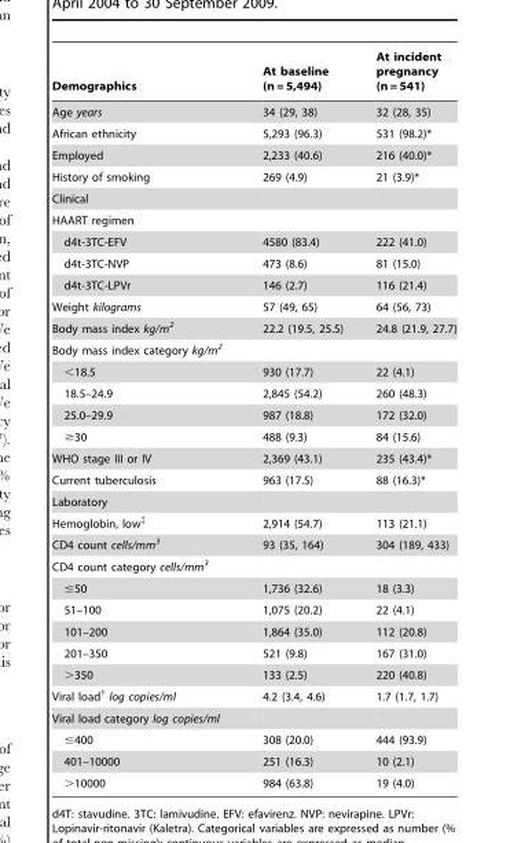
<table><thead><tr><td>Demographics</td><td>At baseline (n = 5,494)</td><td>At incident pregnancy (n = 541)</td></tr></thead><tbody><tr><td>Age years</td><td>34 (29, 38)</td><td>32 (28, 35)</td></tr><tr><td>African ethnicity</td><td>5,293 (96.3)</td><td>531 (98.2)*</td></tr><tr><td>Employed</td><td>2,233 (40.6)</td><td>216 (40.0)*</td></tr><tr><td>History of smoking</td><td>269 (4.9)</td><td>21 (3.9)*</td></tr><tr><td colspan="3">Clinical</td></tr><tr><td colspan="3">HAART regimen</td></tr><tr><td>d4t-3TC-EFV</td><td>4580 (83.4)</td><td>222 (41.0)</td></tr><tr><td>d4t-3TC-NVP</td><td>473 (8.6)</td><td>81 (15.0)</td></tr><tr><td>d4t-3TC-LPVr</td><td>146 (2.7)</td><td>116 (21.4)</td></tr><tr><td>Weight kilograms</td><td>57 (49, 65)</td><td>64 (56, 73)</td></tr><tr><td>Body mass index kg/m<sup>2</sup></td><td>22.2 (19.5, 25.5)</td><td>24.8 (21.9, 27.7)</td></tr><tr><td colspan="3">Body mass index category kg/m<sup>2</sup></td></tr><tr><td>&lt;18.5</td><td>930 (17.7)</td><td>22 (4.1)</td></tr><tr><td>18.5–24.9</td><td>2,845 (54.2)</td><td>260 (48.3)</td></tr><tr><td>25.0–29.9</td><td>987 (18.8)</td><td>172 (32.0)</td></tr><tr><td>≥30</td><td>488 (9.3)</td><td>84 (15.6)</td></tr><tr><td>WHO stage III or IV</td><td>2,369 (43.1)</td><td>235 (43.4)*</td></tr><tr><td>Current tuberculosis</td><td>963 (17.5)</td><td>88 (16.3)*</td></tr><tr><td colspan="3">Laboratory</td></tr><tr><td>Hemoglobin, low‡</td><td>2,914 (54.7)</td><td>113 (21.1)</td></tr><tr><td>CD4 count cells/mm<sup>3</sup></td><td>93 (35, 164)</td><td>304 (189, 433)</td></tr><tr><td colspan="3">CD4 count category cells/mm<sup>3</sup></td></tr><tr><td>≤50</td><td>1,736 (32.6)</td><td>18 (3.3)</td></tr><tr><td>51–100</td><td>1,075 (20.2)</td><td>22 (4.1)</td></tr><tr><td>101–200</td><td>1,864 (35.0)</td><td>112 (20.8)</td></tr><tr><td>201–350</td><td>521 (9.8)</td><td>167 (31.0)</td></tr><tr><td>&gt;350</td><td>133 (2.5)</td><td>220 (40.8)</td></tr><tr><td>Viral load† log copies/ml</td><td>4.2 (3.4, 4.6)</td><td>1.7 (1.7, 1.7)</td></tr><tr><td colspan="3">Viral load category log copies/ml</td></tr><tr><td>≤400</td><td>308 (20.0)</td><td>444 (93.9)</td></tr><tr><td>401–10000</td><td>251 (16.3)</td><td>10 (2.1)</td></tr><tr><td>&gt;10000</td><td>984 (63.8)</td><td>19 (4.0)</td></tr></tbody></table>